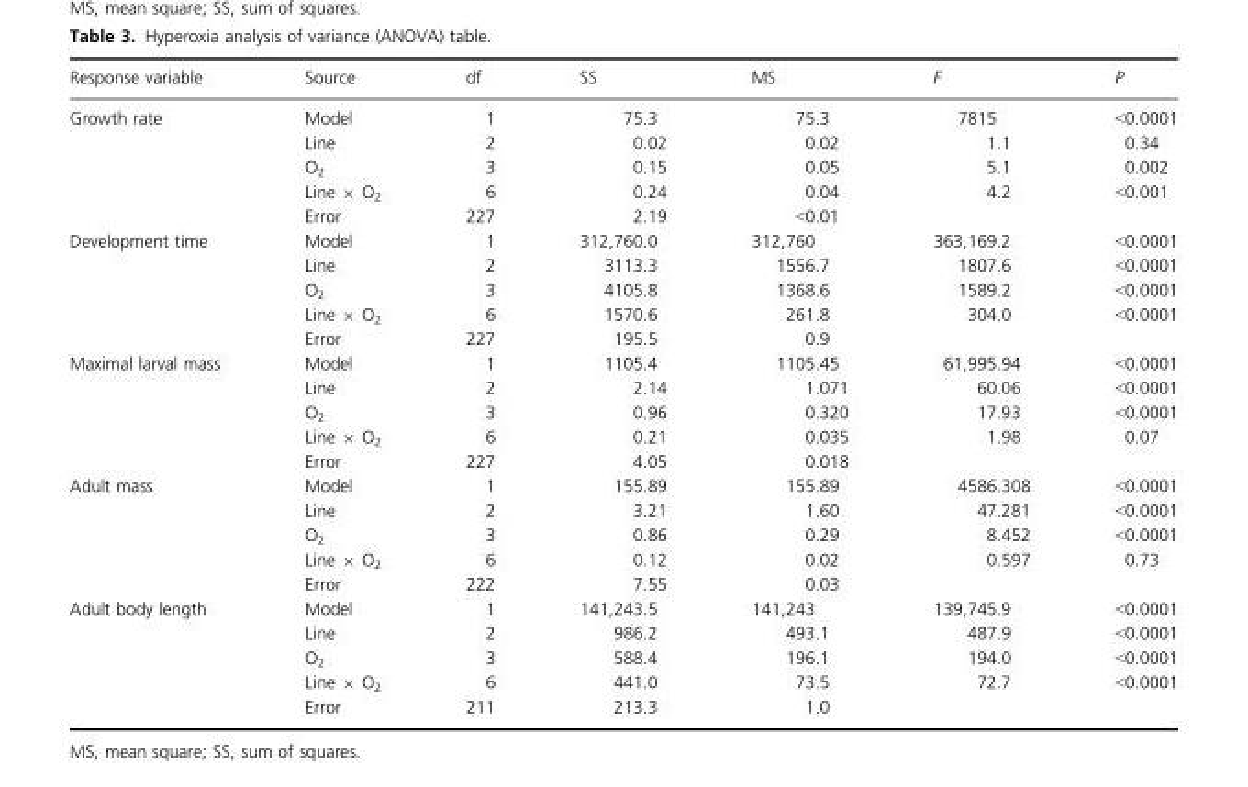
<table><thead><tr><td>Response variable</td><td>Source</td><td>df</td><td>SS</td><td>MS</td><td>F</td><td>P</td></tr></thead><tbody><tr><td rowspan="5">Growth rate</td><td>Model</td><td>1</td><td>75.3</td><td>75.3</td><td>7815</td><td>&lt;0.0001</td></tr><tr><td>Line</td><td>2</td><td>0.02</td><td>0.02</td><td>1.1</td><td>0.34</td></tr><tr><td>O<sub>2</sub></td><td>3</td><td>0.15</td><td>0.05</td><td>5.1</td><td>0.002</td></tr><tr><td>Line × O<sub>2</sub></td><td>6</td><td>0.24</td><td>0.04</td><td>4.2</td><td>&lt;0.001</td></tr><tr><td>Error</td><td>227</td><td>2.19</td><td>&lt;0.01</td><td></td><td></td></tr><tr><td rowspan="5">Development time</td><td>Model</td><td>1</td><td>312,760.0</td><td>312,760</td><td>363,169.2</td><td>&lt;0.0001</td></tr><tr><td>Line</td><td>2</td><td>3113.3</td><td>1556.7</td><td>1807.6</td><td>&lt;0.0001</td></tr><tr><td>O<sub>2</sub></td><td>3</td><td>4105.8</td><td>1368.6</td><td>1589.2</td><td>&lt;0.0001</td></tr><tr><td>Line × O<sub>2</sub></td><td>6</td><td>1570.6</td><td>261.8</td><td>304.0</td><td>&lt;0.0001</td></tr><tr><td>Error</td><td>227</td><td>195.5</td><td>0.9</td><td></td><td></td></tr><tr><td rowspan="5">Maximal larval mass</td><td>Model</td><td>1</td><td>1105.4</td><td>1105.45</td><td>61,995.94</td><td>&lt;0.0001</td></tr><tr><td>Line</td><td>2</td><td>2.14</td><td>1.071</td><td>60.06</td><td>&lt;0.0001</td></tr><tr><td>O<sub>2</sub></td><td>3</td><td>0.96</td><td>0.320</td><td>17.93</td><td>&lt;0.0001</td></tr><tr><td>Line × O<sub>2</sub></td><td>6</td><td>0.21</td><td>0.035</td><td>1.98</td><td>0.07</td></tr><tr><td>Error</td><td>227</td><td>4.05</td><td>0.018</td><td></td><td></td></tr><tr><td rowspan="5">Adult mass</td><td>Model</td><td>1</td><td>155.89</td><td>155.89</td><td>4586.308</td><td>&lt;0.0001</td></tr><tr><td>Line</td><td>2</td><td>3.21</td><td>1.60</td><td>47.281</td><td>&lt;0.0001</td></tr><tr><td>O<sub>2</sub></td><td>3</td><td>0.86</td><td>0.29</td><td>8.452</td><td>&lt;0.0001</td></tr><tr><td>Line × O<sub>2</sub></td><td>6</td><td>0.12</td><td>0.02</td><td>0.597</td><td>0.73</td></tr><tr><td>Error</td><td>222</td><td>7.55</td><td>0.03</td><td></td><td></td></tr><tr><td rowspan="5">Adult body length</td><td>Model</td><td>1</td><td>141,243.5</td><td>141,243</td><td>139,745.9</td><td>&lt;0.0001</td></tr><tr><td>Line</td><td>2</td><td>986.2</td><td>493.1</td><td>487.9</td><td>&lt;0.0001</td></tr><tr><td>O<sub>2</sub></td><td>3</td><td>588.4</td><td>196.1</td><td>194.0</td><td>&lt;0.0001</td></tr><tr><td>Line × O<sub>2</sub></td><td>6</td><td>441.0</td><td>73.5</td><td>72.7</td><td>&lt;0.0001</td></tr><tr><td>Error</td><td>211</td><td>213.3</td><td>1.0</td><td></td><td></td></tr></tbody></table>